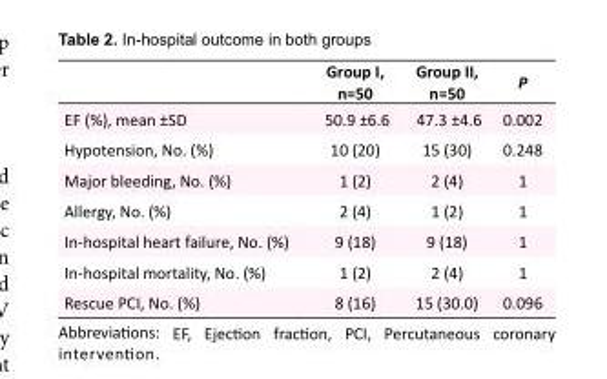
<table><thead><tr><td></td><td>Group I, n=50</td><td>Group II, n=50</td><td>P</td></tr></thead><tbody><tr><td>EF (%), mean ±SD</td><td>50.9 ±6.6</td><td>47.3 ±4.6</td><td>0.002</td></tr><tr><td>Hypotension, No. (%)</td><td>10 (20)</td><td>15 (30)</td><td>0.248</td></tr><tr><td>Major bleeding, No. (%)</td><td>1 (2)</td><td>2 (4)</td><td>1</td></tr><tr><td>Allergy, No. (%)</td><td>2 (4)</td><td>1 (2)</td><td>1</td></tr><tr><td>In-hospital heart failure, No. (%)</td><td>9 (18)</td><td>9 (18)</td><td>1</td></tr><tr><td>In-hospital mortality, No. (%)</td><td>1 (2)</td><td>2 (4)</td><td>1</td></tr><tr><td>Rescue PCI, No. (%)</td><td>8 (16)</td><td>15 (30.0)</td><td>0.096</td></tr></tbody></table>